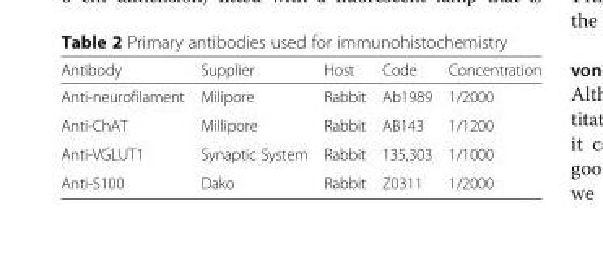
<table><thead><tr><td>Antibody</td><td>Supplier</td><td>Host</td><td>Code</td><td>Concentration</td></tr></thead><tbody><tr><td>Anti-neurofilament</td><td>Milipore</td><td>Rabbit</td><td>Ab1989</td><td>1/2000</td></tr><tr><td>Anti-ChAT</td><td>Millipore</td><td>Rabbit</td><td>AB143</td><td>1/1200</td></tr><tr><td>Anti-VGLUT1</td><td>Synaptic System</td><td>Rabbit</td><td>135,303</td><td>1/1000</td></tr><tr><td>Anti-S100</td><td>Dako</td><td>Rabbit</td><td>Z0311</td><td>1/2000</td></tr></tbody></table>